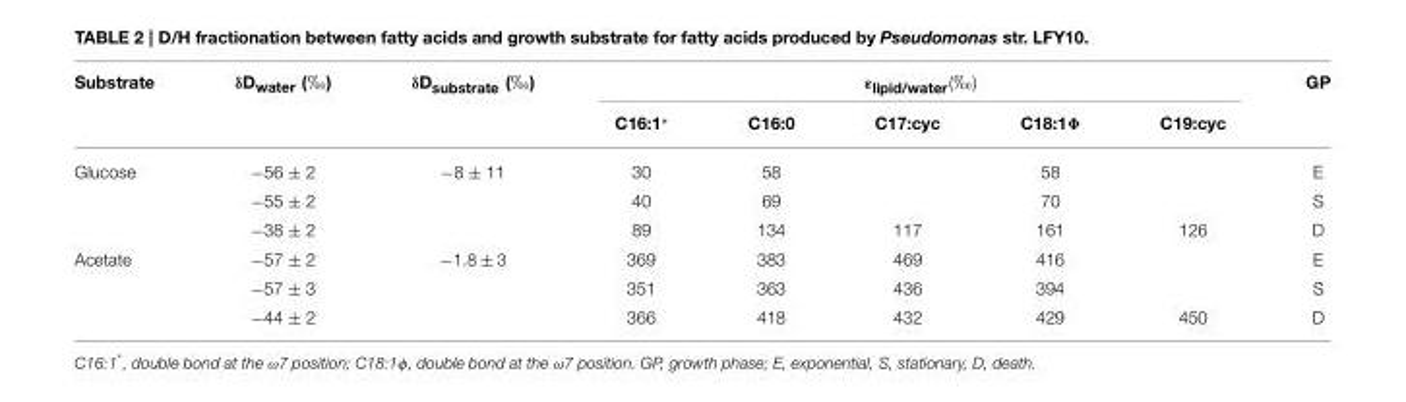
<table><thead><tr><td rowspan="2">Substrate</td><td rowspan="2">δD<sub>water</sub> (‰)</td><td rowspan="2">δD<sub>substrate</sub> (‰)</td><td colspan="5">ε<sub>lipid/water</sub>(‰)</td><td rowspan="2">GP</td></tr><tr><td>C16:1*</td><td>C16:0</td><td>C17:cyc</td><td>C18:1Φ</td><td>C19:cyc</td></tr></thead><tbody><tr><td rowspan="3">Glucose</td><td>−56 ± 2</td><td>−8 ± 11</td><td>30</td><td>58</td><td></td><td>58</td><td></td><td>E</td></tr><tr><td>−55 ± 2</td><td></td><td>40</td><td>69</td><td></td><td>70</td><td></td><td>S</td></tr><tr><td>−38 ± 2</td><td></td><td>89</td><td>134</td><td>117</td><td>161</td><td>126</td><td>D</td></tr><tr><td rowspan="3">Acetate</td><td>−57 ± 2</td><td>−1.8 ± 3</td><td>369</td><td>383</td><td>469</td><td>416</td><td></td><td>E</td></tr><tr><td>−57 ± 3</td><td></td><td>351</td><td>363</td><td>436</td><td>394</td><td></td><td>S</td></tr><tr><td>−44 ± 2</td><td></td><td>366</td><td>418</td><td>432</td><td>429</td><td>450</td><td>D</td></tr></tbody></table>